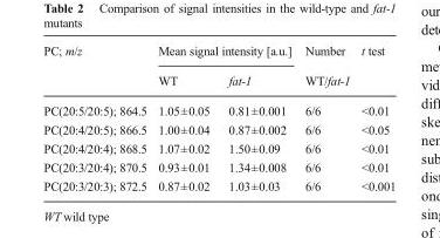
<table><thead><tr><td rowspan="2">PC; m/z</td><td colspan="2">Mean signal intensity [a.u.]</td><td rowspan="2">Number WT/fat-1</td><td rowspan="2">t test</td></tr><tr><td>WT</td><td>fat-1</td></tr></thead><tbody><tr><td>PC(20:5/20:5); 864.5</td><td>1.05±0.05</td><td>0.81±0.001</td><td>6/6</td><td>&lt;0.01</td></tr><tr><td>PC(20:4/20:5); 866.5</td><td>1.00±0.04</td><td>0.87±0.002</td><td>6/6</td><td>&lt;0.05</td></tr><tr><td>PC(20:4/20:4); 868.5</td><td>1.07±0.02</td><td>1.50±0.09</td><td>6/6</td><td>&lt;0.01</td></tr><tr><td>PC(20:3/20:4); 870.5</td><td>0.93±0.01</td><td>1.34±0.008</td><td>6/6</td><td>&lt;0.01</td></tr><tr><td>PC(20:3/20:3); 872.5</td><td>0.87±0.02</td><td>1.03±0.03</td><td>6/6</td><td>&lt;0.001</td></tr></tbody></table>